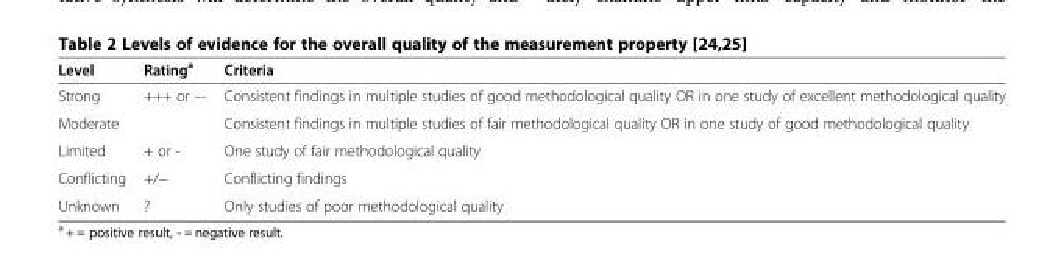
<table><thead><tr><td>Level</td><td>Rating<sup>a</sup></td><td>Criteria</td></tr></thead><tbody><tr><td>Strong</td><td>+++ or –-</td><td>Consistent findings in multiple studies of good methodological quality OR in one study of excellent methodological quality</td></tr><tr><td>Moderate</td><td></td><td>Consistent findings in multiple studies of fair methodological quality OR in one study of good methodological quality</td></tr><tr><td>Limited</td><td>+ or -</td><td>One study of fair methodological quality</td></tr><tr><td>Conflicting</td><td>+/−</td><td>Conflicting findings</td></tr><tr><td>Unknown</td><td>?</td><td>Only studies of poor methodological quality</td></tr></tbody></table>